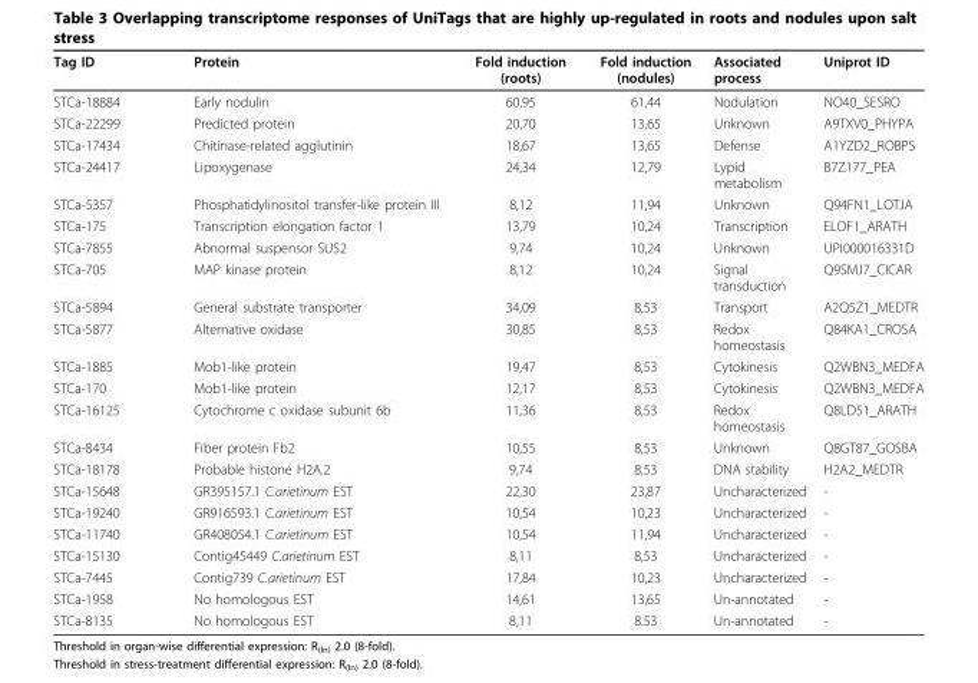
<table><thead><tr><td>Tag ID</td><td>Protein</td><td>Fold induction (roots)</td><td>Fold induction (nodules)</td><td>Associated process</td><td>Uniprot ID</td></tr></thead><tbody><tr><td>STCa-18884</td><td>Early nodulin</td><td>60,95</td><td>61,44</td><td>Nodulation</td><td>NO40_SESRO</td></tr><tr><td>STCa-22299</td><td>Predicted protein</td><td>20,70</td><td>13,65</td><td>Unknown</td><td>A9TXV0_PHYPA</td></tr><tr><td>STCa-17434</td><td>Chitinase-related agglutinin</td><td>18,67</td><td>13,65</td><td>Defense</td><td>A1YZD2_ROBPS</td></tr><tr><td>STCa-24417</td><td>Lipoxygenase</td><td>24,34</td><td>12,79</td><td>Lypid metabolism</td><td>B7Z177_PEA</td></tr><tr><td>STCa-5357</td><td>Phosphatidylinositol transfer-like protein III</td><td>8,12</td><td>11,94</td><td>Unknown</td><td>Q94FN1_LOTJA</td></tr><tr><td>STCa-175</td><td>Transcription elongation factor 1</td><td>13,79</td><td>10,24</td><td>Transcription</td><td>ELOF1_ARATH</td></tr><tr><td>STCa-7855</td><td>Abnormal suspensor SUS2</td><td>9,74</td><td>10,24</td><td>Unknown</td><td>UPI000016331D</td></tr><tr><td>STCa-705</td><td>MAP kinase protein</td><td>8,12</td><td>10,24</td><td>Signal transduction</td><td>Q9SMJ7_CICAR</td></tr><tr><td>STCa-5894</td><td>General substrate transporter</td><td>34,09</td><td>8,53</td><td>Transport</td><td>A2Q5Z1_MEDTR</td></tr><tr><td>STCa-5877</td><td>Alternative oxidase</td><td>30,85</td><td>8,53</td><td>Redox homeostasis</td><td>Q84KA1_CROSA</td></tr><tr><td>STCa-1885</td><td>Mob1-like protein</td><td>19,47</td><td>8,53</td><td>Cytokinesis</td><td>Q2WBN3_MEDFA</td></tr><tr><td>STCa-170</td><td>Mob1-like protein</td><td>12,17</td><td>8,53</td><td>Cytokinesis</td><td>Q2WBN3_MEDFA</td></tr><tr><td>STCa-16125</td><td>Cytochrome c oxidase subunit 6b</td><td>11,36</td><td>8,53</td><td>Redox homeostasis</td><td>Q8LD51_ARATH</td></tr><tr><td>STCa-8434</td><td>Fiber protein Fb2</td><td>10,55</td><td>8,53</td><td>Unknown</td><td>Q8GT87_GOSBA</td></tr><tr><td>STCa-18178</td><td>Probable histone H2A.2</td><td>9,74</td><td>8,53</td><td>DNA stability</td><td>H2A2_MEDTR</td></tr><tr><td>STCa-15648</td><td>GR395157.1 C.arietinum EST</td><td>22,30</td><td>23,87</td><td>Uncharacterized</td><td>-</td></tr><tr><td>STCa-19240</td><td>GR916593.1 C.arietinum EST</td><td>10,54</td><td>10,23</td><td>Uncharacterized</td><td>-</td></tr><tr><td>STCa-11740</td><td>GR408054.1 C.arietinum EST</td><td>10,54</td><td>11,94</td><td>Uncharacterized</td><td>-</td></tr><tr><td>STCa-15130</td><td>Contig45449 C.arietinum EST</td><td>8,11</td><td>8,53</td><td>Uncharacterized</td><td>-</td></tr><tr><td>STCa-7445</td><td>Contig739 C.arietinum EST</td><td>17,84</td><td>10,23</td><td>Uncharacterized</td><td>-</td></tr><tr><td>STCa-1958</td><td>No homologous EST</td><td>14,61</td><td>13,65</td><td>Un-annotated</td><td>-</td></tr><tr><td>STCa-8135</td><td>No homologous EST</td><td>8,11</td><td>8.53</td><td>Un-annotated</td><td>-</td></tr></tbody></table>